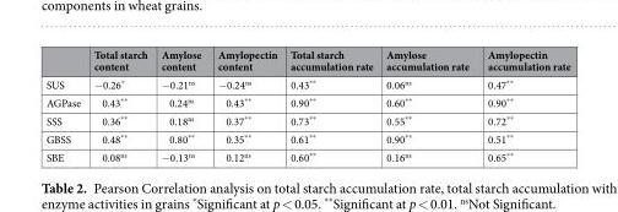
<table><thead><tr><td></td><td>Total starch content</td><td>Amylose content</td><td>Amylopectin content</td><td>Total starch accumulation rate</td><td>Amylose accumulation rate</td><td>Amylopectin accumulation rate</td></tr></thead><tbody><tr><td>SUS</td><td>−0.26*</td><td>−0.21<sup>ns</sup></td><td>−0.24<sup>ns</sup></td><td>0.43**</td><td>0.06<sup>ns</sup></td><td>0.47**</td></tr><tr><td>AGPase</td><td>0.43**</td><td>0.24<sup>ns</sup></td><td>0.43**</td><td>0.90**</td><td>0.60**</td><td>0.90**</td></tr><tr><td>SSS</td><td>0.36**</td><td>0.18<sup>ns</sup></td><td>0.37**</td><td>0.73**</td><td>0.55**</td><td>0.72**</td></tr><tr><td>GBSS</td><td>0.48**</td><td>0.80**</td><td>0.35**</td><td>0.61**</td><td>0.90**</td><td>0.51**</td></tr><tr><td>SBE</td><td>0.08<sup>ns</sup></td><td>−0.13<sup>ns</sup></td><td>0.12<sup>ns</sup></td><td>0.60**</td><td>0.16<sup>ns</sup></td><td>0.65**</td></tr></tbody></table>